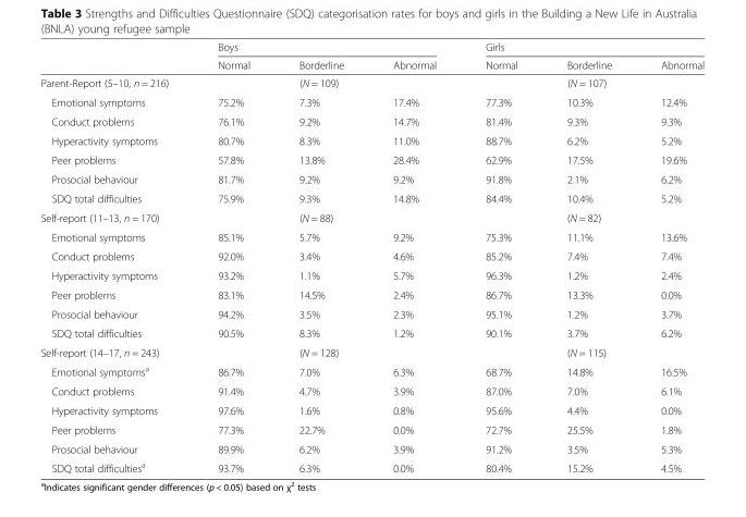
<table><thead><tr><td rowspan="2"></td><td colspan="3">Boys</td><td colspan="3">Girls</td></tr><tr><td>Normal</td><td>Borderline</td><td>Abnormal</td><td>Normal</td><td>Borderline</td><td>Abnormal</td></tr></thead><tbody><tr><td>Parent-Report (5–10, n = 216)</td><td colspan="3">(N = 109)</td><td colspan="3">(N = 107)</td></tr><tr><td>Emotional symptoms</td><td>75.2%</td><td>7.3%</td><td>17.4%</td><td>77.3%</td><td>10.3%</td><td>12.4%</td></tr><tr><td>Conduct problems</td><td>76.1%</td><td>9.2%</td><td>14.7%</td><td>81.4%</td><td>9.3%</td><td>9.3%</td></tr><tr><td>Hyperactivity symptoms</td><td>80.7%</td><td>8.3%</td><td>11.0%</td><td>88.7%</td><td>6.2%</td><td>5.2%</td></tr><tr><td>Peer problems</td><td>57.8%</td><td>13.8%</td><td>28.4%</td><td>62.9%</td><td>17.5%</td><td>19.6%</td></tr><tr><td>Prosocial behaviour</td><td>81.7%</td><td>9.2%</td><td>9.2%</td><td>91.8%</td><td>2.1%</td><td>6.2%</td></tr><tr><td>SDQ total difficulties</td><td>75.9%</td><td>9.3%</td><td>14.8%</td><td>84.4%</td><td>10.4%</td><td>5.2%</td></tr><tr><td>Self-report (11–13, n = 170)</td><td colspan="3">(N = 88)</td><td colspan="3">(N = 82)</td></tr><tr><td>Emotional symptoms</td><td>85.1%</td><td>5.7%</td><td>9.2%</td><td>75.3%</td><td>11.1%</td><td>13.6%</td></tr><tr><td>Conduct problems</td><td>92.0%</td><td>3.4%</td><td>4.6%</td><td>85.2%</td><td>7.4%</td><td>7.4%</td></tr><tr><td>Hyperactivity symptoms</td><td>93.2%</td><td>1.1%</td><td>5.7%</td><td>96.3%</td><td>1.2%</td><td>2.4%</td></tr><tr><td>Peer problems</td><td>83.1%</td><td>14.5%</td><td>2.4%</td><td>86.7%</td><td>13.3%</td><td>0.0%</td></tr><tr><td>Prosocial behaviour</td><td>94.2%</td><td>3.5%</td><td>2.3%</td><td>95.1%</td><td>1.2%</td><td>3.7%</td></tr><tr><td>SDQ total difficulties</td><td>90.5%</td><td>8.3%</td><td>1.2%</td><td>90.1%</td><td>3.7%</td><td>6.2%</td></tr><tr><td>Self-report (14–17, n = 243)</td><td colspan="3">(N = 128)</td><td colspan="3">(N = 115)</td></tr><tr><td>Emotional symptoms<sup>a</sup></td><td>86.7%</td><td>7.0%</td><td>6.3%</td><td>68.7%</td><td>14.8%</td><td>16.5%</td></tr><tr><td>Conduct problems</td><td>91.4%</td><td>4.7%</td><td>3.9%</td><td>87.0%</td><td>7.0%</td><td>6.1%</td></tr><tr><td>Hyperactivity symptoms</td><td>97.6%</td><td>1.6%</td><td>0.8%</td><td>95.6%</td><td>4.4%</td><td>0.0%</td></tr><tr><td>Peer problems</td><td>77.3%</td><td>22.7%</td><td>0.0%</td><td>72.7%</td><td>25.5%</td><td>1.8%</td></tr><tr><td>Prosocial behaviour</td><td>89.9%</td><td>6.2%</td><td>3.9%</td><td>91.2%</td><td>3.5%</td><td>5.3%</td></tr><tr><td>SDQ total difficulties<sup>a</sup></td><td>93.7%</td><td>6.3%</td><td>0.0%</td><td>80.4%</td><td>15.2%</td><td>4.5%</td></tr></tbody></table>